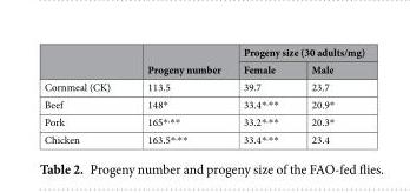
<table><thead><tr><td rowspan="2"></td><td rowspan="2">Progeny number</td><td colspan="2">Progeny size (30 adults/mg)</td></tr><tr><td>Female</td><td>Male</td></tr></thead><tbody><tr><td>Cornmeal (CK)</td><td>113.5</td><td>39.7</td><td>23.7</td></tr><tr><td>Beef</td><td>148*</td><td>33.4*<sup>,</sup>**</td><td>20.9*</td></tr><tr><td>Pork</td><td>165*<sup>,</sup>**</td><td>33.2*<sup>,</sup>**</td><td>20.3*</td></tr><tr><td>Chicken</td><td>163.5*<sup>,</sup>**</td><td>33.4*<sup>,</sup>**</td><td>23.4</td></tr></tbody></table>